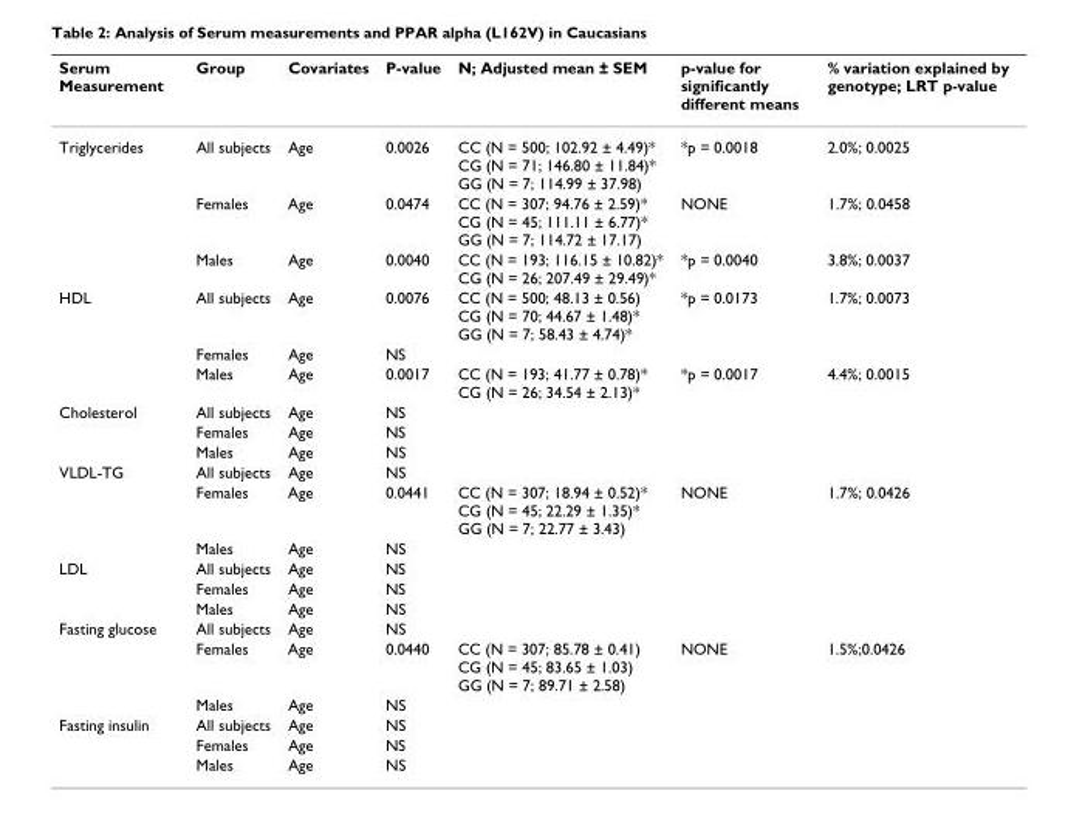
<table><thead><tr><td>Serum Measurement</td><td>Group</td><td>Covariates</td><td>P-value</td><td>N; Adjusted mean ± SEM</td><td>p-value for significantly different means</td><td>% variation explained by genotype; LRT p-value</td></tr></thead><tbody><tr><td rowspan="3">Triglycerides</td><td>All subjects</td><td>Age</td><td>0.0026</td><td>CC (N = 500; 102.92 ± 4.49)* CG (N = 71; 146.80 ± 11.84)* GG (N = 7; 114.99 ± 37.98)</td><td>*p = 0.0018</td><td>2.0%; 0.0025</td></tr><tr><td>Females</td><td>Age</td><td>0.0474</td><td>CC (N = 307; 94.76 ± 2.59)* CG (N = 45; 111.11 ± 6.77)* GG (N = 7; 114.72 ± 17.17)</td><td>NONE</td><td>1.7%; 0.0458</td></tr><tr><td>Males</td><td>Age</td><td>0.0040</td><td>CC (N = 193; 116.15 ± 10.82)* CG (N = 26; 207.49 ± 29.49)*</td><td>*p = 0.0040</td><td>3.8%; 0.0037</td></tr><tr><td rowspan="3">HDL</td><td>All subjects</td><td>Age</td><td>0.0076</td><td>CC (N = 500; 48.13 ± 0.56) CG (N = 70; 44.67 ± 1.48)* GG (N = 7; 58.43 ± 4.74)*</td><td>*p = 0.0173</td><td>1.7%; 0.0073</td></tr><tr><td>Females</td><td>Age</td><td>NS</td><td></td><td></td><td></td></tr><tr><td>Males</td><td>Age</td><td>0.0017</td><td>CC (N = 193; 41.77 ± 0.78)* CG (N = 26; 34.54 ± 2.13)*</td><td>*p = 0.0017</td><td>4.4%; 0.0015</td></tr><tr><td rowspan="3">Cholesterol</td><td>All subjects</td><td>Age</td><td>NS</td><td></td><td></td><td></td></tr><tr><td>Females</td><td>Age</td><td>NS</td><td></td><td></td><td></td></tr><tr><td>Males</td><td>Age</td><td>NS</td><td></td><td></td><td></td></tr><tr><td rowspan="3">VLDL-TG</td><td>All subjects</td><td>Age</td><td>NS</td><td></td><td></td><td></td></tr><tr><td>Females</td><td>Age</td><td>0.0441</td><td>CC (N = 307; 18.94 ± 0.52)* CG (N = 45; 22.29 ± 1.35)* GG (N = 7; 22.77 ± 3.43)</td><td>NONE</td><td>1.7%; 0.0426</td></tr><tr><td>Males</td><td>Age</td><td>NS</td><td></td><td></td><td></td></tr><tr><td rowspan="3">LDL</td><td>All subjects</td><td>Age</td><td>NS</td><td></td><td></td><td></td></tr><tr><td>Females</td><td>Age</td><td>NS</td><td></td><td></td><td></td></tr><tr><td>Males</td><td>Age</td><td>NS</td><td></td><td></td><td></td></tr><tr><td rowspan="3">Fasting glucose</td><td>All subjects</td><td>Age</td><td>NS</td><td></td><td></td><td></td></tr><tr><td>Females</td><td>Age</td><td>0.0440</td><td>CC (N = 307; 85.78 ± 0.41) CG (N = 45; 83.65 ± 1.03) GG (N = 7; 89.71 ± 2.58)</td><td>NONE</td><td>1.5%;0.0426</td></tr><tr><td>Males</td><td>Age</td><td>NS</td><td></td><td></td><td></td></tr><tr><td rowspan="3">Fasting insulin</td><td>All subjects</td><td>Age</td><td>NS</td><td></td><td></td><td></td></tr><tr><td>Females</td><td>Age</td><td>NS</td><td></td><td></td><td></td></tr><tr><td>Males</td><td>Age</td><td>NS</td><td></td><td></td><td></td></tr></tbody></table>